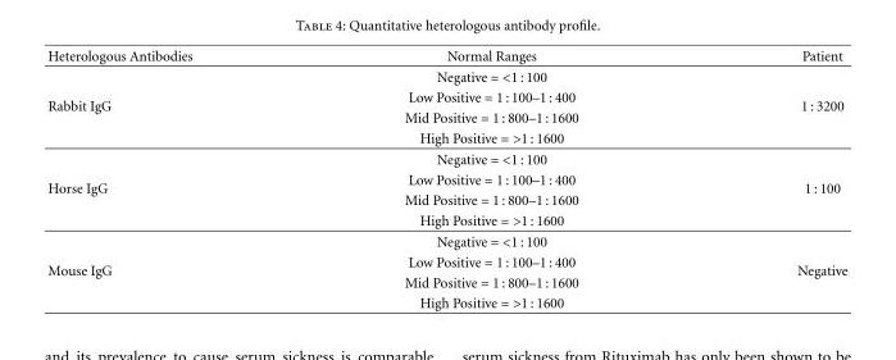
<table><thead><tr><td>Heterologous Antibodies</td><td>Normal Ranges</td><td>Patient</td></tr></thead><tbody><tr><td rowspan="4">Rabbit IgG</td><td>Negative = &lt;1 : 100</td><td rowspan="4">1 : 3200</td></tr><tr><td>Low Positive = 1 : 100–1 : 400</td></tr><tr><td>Mid Positive = 1 : 800–1 : 1600</td></tr><tr><td>High Positive = &gt;1 : 1600</td></tr><tr><td rowspan="4">Horse IgG</td><td>Negative = &lt;1 : 100</td><td rowspan="4">1 : 100</td></tr><tr><td>Low Positive = 1 : 100–1 : 400</td></tr><tr><td>Mid Positive = 1 : 800–1 : 1600</td></tr><tr><td>High Positive = &gt;1 : 1600</td></tr><tr><td rowspan="4">Mouse IgG</td><td>Negative = &lt;1 : 100</td><td rowspan="4">Negative</td></tr><tr><td>Low Positive = 1 : 100–1 : 400</td></tr><tr><td>Mid Positive = 1 : 800–1 : 1600</td></tr><tr><td>High Positive = &gt;1 : 1600</td></tr></tbody></table>